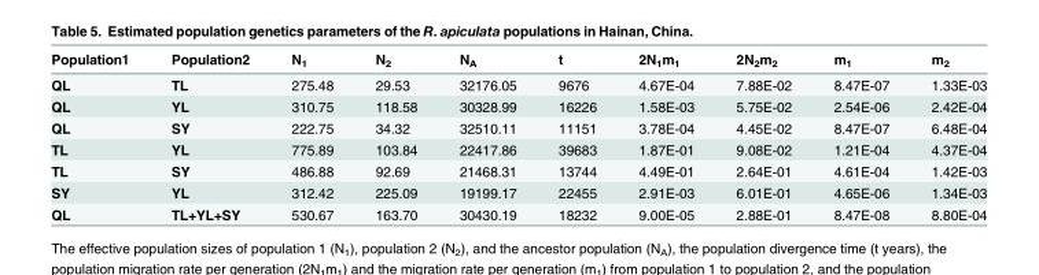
<table><thead><tr><td>Population1</td><td>Population2</td><td>N<sub>1</sub></td><td>N<sub>2</sub></td><td>N<sub>A</sub></td><td>t</td><td>2N<sub>1</sub>m<sub>1</sub></td><td>2N<sub>2</sub>m<sub>2</sub></td><td>m<sub>1</sub></td><td>m<sub>2</sub></td></tr></thead><tbody><tr><td>QL</td><td>TL</td><td>275.48</td><td>29.53</td><td>32176.05</td><td>9676</td><td>4.67E-04</td><td>7.88E-02</td><td>8.47E-07</td><td>1.33E-03</td></tr><tr><td>QL</td><td>YL</td><td>310.75</td><td>118.58</td><td>30328.99</td><td>16226</td><td>1.58E-03</td><td>5.75E-02</td><td>2.54E-06</td><td>2.42E-04</td></tr><tr><td>QL</td><td>SY</td><td>222.75</td><td>34.32</td><td>32510.11</td><td>11151</td><td>3.78E-04</td><td>4.45E-02</td><td>8.47E-07</td><td>6.48E-04</td></tr><tr><td>TL</td><td>YL</td><td>775.89</td><td>103.84</td><td>22417.86</td><td>39683</td><td>1.87E-01</td><td>9.08E-02</td><td>1.21E-04</td><td>4.37E-04</td></tr><tr><td>TL</td><td>SY</td><td>486.88</td><td>92.69</td><td>21468.31</td><td>13744</td><td>4.49E-01</td><td>2.64E-01</td><td>4.61E-04</td><td>1.42E-03</td></tr><tr><td>SY</td><td>YL</td><td>312.42</td><td>225.09</td><td>19199.17</td><td>22455</td><td>2.91E-03</td><td>6.01E-01</td><td>4.65E-06</td><td>1.34E-03</td></tr><tr><td>QL</td><td>TL+YL+SY</td><td>530.67</td><td>163.70</td><td>30430.19</td><td>18232</td><td>9.00E-05</td><td>2.88E-01</td><td>8.47E-08</td><td>8.80E-04</td></tr></tbody></table>